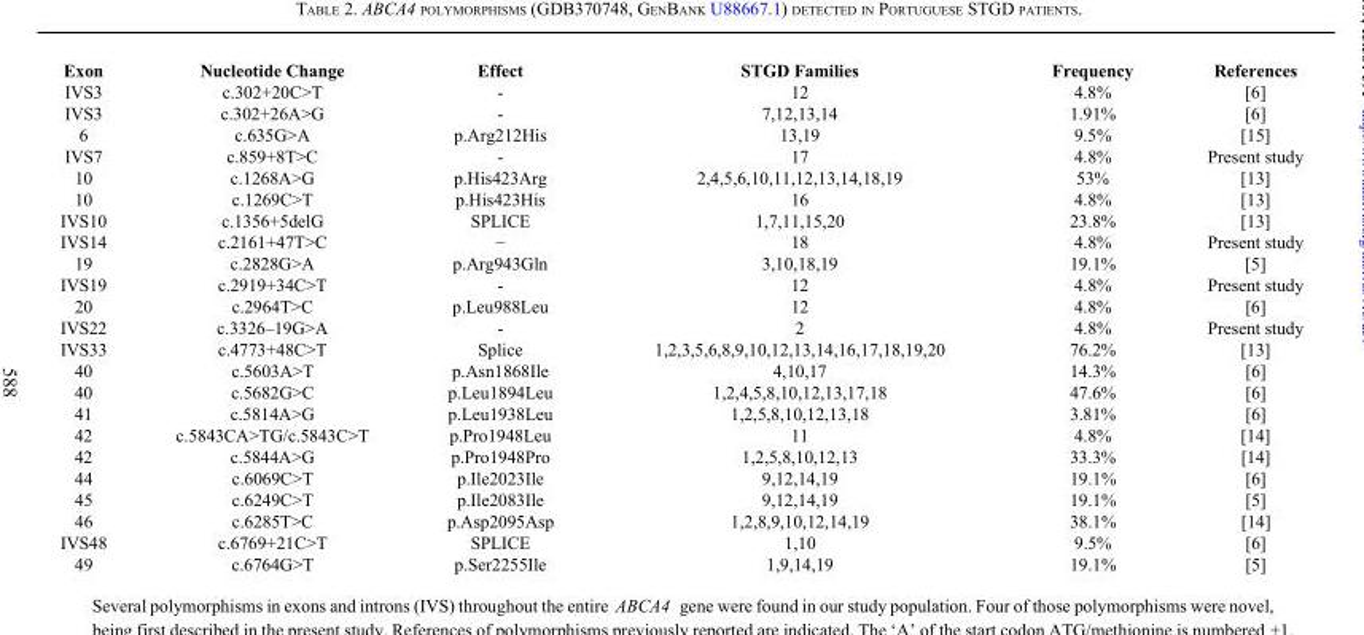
<table><thead><tr><td>Exon</td><td>Nucleotide Change</td><td>Effect</td><td>STGD Families</td><td>Frequency</td><td>References</td></tr></thead><tbody><tr><td>IVS3</td><td>c.302+20C&gt;T</td><td>-</td><td>12</td><td>4.8%</td><td>[6]</td></tr><tr><td>IVS3</td><td>c.302+26A&gt;G</td><td>-</td><td>7,12,13,14</td><td>1.91%</td><td>[6]</td></tr><tr><td>6</td><td>c.635G&gt;A</td><td>p.Arg212His</td><td>13,19</td><td>9.5%</td><td>[15]</td></tr><tr><td>IVS7</td><td>c.859+8T&gt;C</td><td>-</td><td>17</td><td>4.8%</td><td>Present study</td></tr><tr><td>10</td><td>c.1268A&gt;G</td><td>p.His423Arg</td><td>2,4,5,6,10,11,12,13,14,18,19</td><td>53%</td><td>[13]</td></tr><tr><td>10</td><td>c.1269C&gt;T</td><td>p.His423His</td><td>16</td><td>4.8%</td><td>[13]</td></tr><tr><td>IVS10</td><td>c.1356+5delG</td><td>SPLICE</td><td>1,7,11,15,20</td><td>23.8%</td><td>[13]</td></tr><tr><td>IVS14</td><td>c.2161+47T&gt;C</td><td>−</td><td>18</td><td>4.8%</td><td>Present study</td></tr><tr><td>19</td><td>c.2828G&gt;A</td><td>p.Arg943Gln</td><td>3,10,18,19</td><td>19.1%</td><td>[5]</td></tr><tr><td>IVS19</td><td>c.2919+34C&gt;T</td><td>-</td><td>12</td><td>4.8%</td><td>Present study</td></tr><tr><td>20</td><td>c.2964T&gt;C</td><td>p.Leu988Leu</td><td>12</td><td>4.8%</td><td>[6]</td></tr><tr><td>IVS22</td><td>c.3326–19G&gt;A</td><td>-</td><td>2</td><td>4.8%</td><td>Present study</td></tr><tr><td>IVS33</td><td>c.4773+48C&gt;T</td><td>Splice</td><td>1,2,3,5,6,8,9,10,12,13,14,16,17,18,19,20</td><td>76.2%</td><td>[13]</td></tr><tr><td>40</td><td>c.5603A&gt;T</td><td>p.Asn1868Ile</td><td>4,10,17</td><td>14.3%</td><td>[6]</td></tr><tr><td>40</td><td>c.5682G&gt;C</td><td>p.Leu1894Leu</td><td>1,2,4,5,8,10,12,13,17,18</td><td>47.6%</td><td>[6]</td></tr><tr><td>41</td><td>c.5814A&gt;G</td><td>p.Leu1938Leu</td><td>1,2,5,8,10,12,13,18</td><td>3.81%</td><td>[6]</td></tr><tr><td>42</td><td>c.5843CA&gt;TG/c.5843C&gt;T</td><td>p.Pro1948Leu</td><td>11</td><td>4.8%</td><td>[14]</td></tr><tr><td>42</td><td>c.5844A&gt;G</td><td>p.Pro1948Pro</td><td>1,2,5,8,10,12,13</td><td>33.3%</td><td>[14]</td></tr><tr><td>44</td><td>c.6069C&gt;T</td><td>p.Ile2023Ile</td><td>9,12,14,19</td><td>19.1%</td><td>[6]</td></tr><tr><td>45</td><td>c.6249C&gt;T</td><td>p.Ile2083Ile</td><td>9,12,14,19</td><td>19.1%</td><td>[5]</td></tr><tr><td>46</td><td>c.6285T&gt;C</td><td>p.Asp2095Asp</td><td>1,2,8,9,10,12,14,19</td><td>38.1%</td><td>[14]</td></tr><tr><td>IVS48</td><td>c.6769+21C&gt;T</td><td>SPLICE</td><td>1,10</td><td>9.5%</td><td>[6]</td></tr><tr><td>49</td><td>c.6764G&gt;T</td><td>p.Ser2255Ile</td><td>1,9,14,19</td><td>19.1%</td><td>[5]</td></tr></tbody></table>